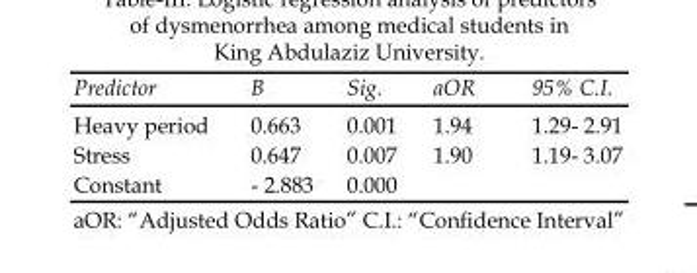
<table><thead><tr><td>Predictor</td><td>B</td><td>Sig.</td><td>aOR</td><td>95% C.I.</td></tr></thead><tbody><tr><td>Heavy period</td><td>0.663</td><td>0.001</td><td>1.94</td><td>1.29- 2.91</td></tr><tr><td>Stress</td><td>0.647</td><td>0.007</td><td>1.90</td><td>1.19- 3.07</td></tr><tr><td>Constant</td><td>- 2.883</td><td>0.000</td><td></td><td></td></tr></tbody></table>